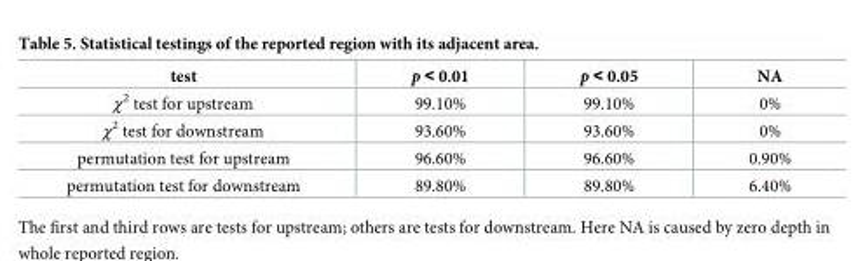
<table><thead><tr><td>test</td><td>p &lt; 0.01</td><td>p &lt; 0.05</td><td>NA</td></tr></thead><tbody><tr><td>χ<sup>2</sup> test for upstream</td><td>99.10%</td><td>99.10%</td><td>0%</td></tr><tr><td>χ<sup>2</sup> test for downstream</td><td>93.60%</td><td>93.60%</td><td>0%</td></tr><tr><td>permutation test for upstream</td><td>96.60%</td><td>96.60%</td><td>0.90%</td></tr><tr><td>permutation test for downstream</td><td>89.80%</td><td>89.80%</td><td>6.40%</td></tr></tbody></table>